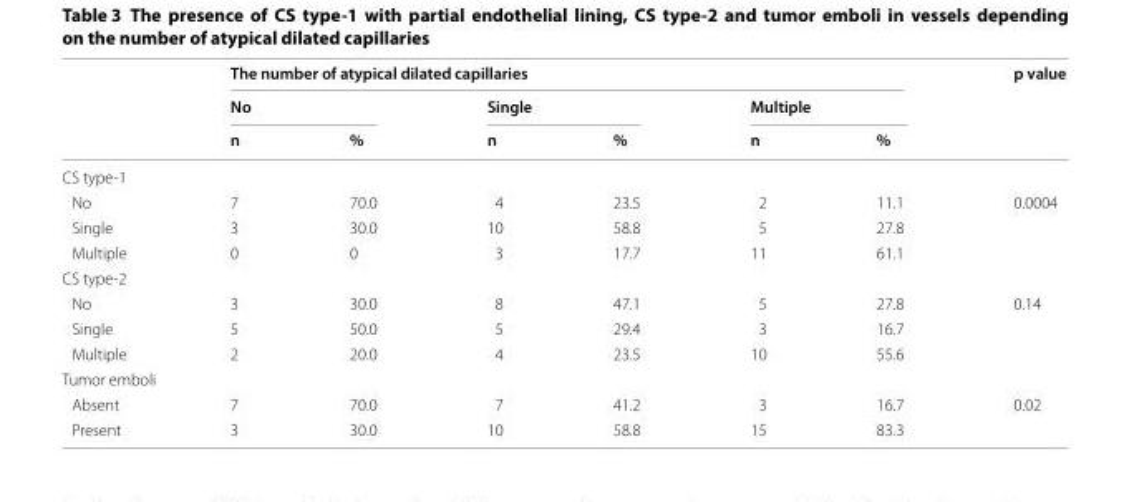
<table><thead><tr><td rowspan="3"></td><td colspan="6">The number of atypical dilated capillaries</td><td rowspan="3">p value</td></tr><tr><td colspan="2">No</td><td colspan="2">Single</td><td colspan="2">Multiple</td></tr><tr><td>n</td><td>%</td><td>n</td><td>%</td><td>n</td><td>%</td></tr></thead><tbody><tr><td colspan="8">CS type-1</td></tr><tr><td>No</td><td>7</td><td>70.0</td><td>4</td><td>23.5</td><td>2</td><td>11.1</td><td rowspan="3">0.0004</td></tr><tr><td>Single</td><td>3</td><td>30.0</td><td>10</td><td>58.8</td><td>5</td><td>27.8</td></tr><tr><td>Multiple</td><td>0</td><td>0</td><td>3</td><td>17.7</td><td>11</td><td>61.1</td></tr><tr><td colspan="8">CS type-2</td></tr><tr><td>No</td><td>3</td><td>30.0</td><td>8</td><td>47.1</td><td>5</td><td>27.8</td><td rowspan="3">0.14</td></tr><tr><td>Single</td><td>5</td><td>50.0</td><td>5</td><td>29.4</td><td>3</td><td>16.7</td></tr><tr><td>Multiple</td><td>2</td><td>20.0</td><td>4</td><td>23.5</td><td>10</td><td>55.6</td></tr><tr><td colspan="8">Tumor emboli</td></tr><tr><td>Absent</td><td>7</td><td>70.0</td><td>7</td><td>41.2</td><td>3</td><td>16.7</td><td rowspan="2">0.02</td></tr><tr><td>Present</td><td>3</td><td>30.0</td><td>10</td><td>58.8</td><td>15</td><td>83.3</td></tr></tbody></table>